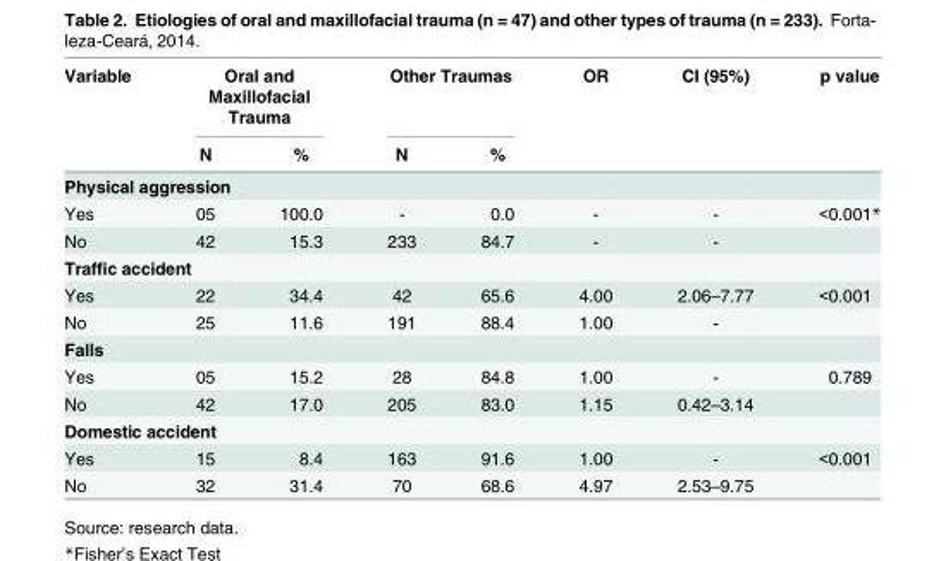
<table><thead><tr><td rowspan="2">Variable</td><td colspan="2">Oral and Maxillofacial Trauma</td><td colspan="2">Other Traumas</td><td rowspan="2">OR</td><td rowspan="2">CI (95%)</td><td rowspan="2">p value</td></tr><tr><td>N</td><td>%</td><td>N</td><td>%</td></tr></thead><tbody><tr><td colspan="8">Physical aggression</td></tr><tr><td>Yes</td><td>05</td><td>100.0</td><td>-</td><td>0.0</td><td>-</td><td>-</td><td>&lt;0.001*</td></tr><tr><td>No</td><td>42</td><td>15.3</td><td>233</td><td>84.7</td><td>-</td><td>-</td><td></td></tr><tr><td colspan="8">Traffic accident</td></tr><tr><td>Yes</td><td>22</td><td>34.4</td><td>42</td><td>65.6</td><td>4.00</td><td>2.06–7.77</td><td>&lt;0.001</td></tr><tr><td>No</td><td>25</td><td>11.6</td><td>191</td><td>88.4</td><td>1.00</td><td>-</td><td></td></tr><tr><td colspan="8">Falls</td></tr><tr><td>Yes</td><td>05</td><td>15.2</td><td>28</td><td>84.8</td><td>1.00</td><td>-</td><td>0.789</td></tr><tr><td>No</td><td>42</td><td>17.0</td><td>205</td><td>83.0</td><td>1.15</td><td>0.42–3.14</td><td></td></tr><tr><td colspan="8">Domestic accident</td></tr><tr><td>Yes</td><td>15</td><td>8.4</td><td>163</td><td>91.6</td><td>1.00</td><td>-</td><td>&lt;0.001</td></tr><tr><td>No</td><td>32</td><td>31.4</td><td>70</td><td>68.6</td><td>4.97</td><td>2.53–9.75</td><td></td></tr></tbody></table>